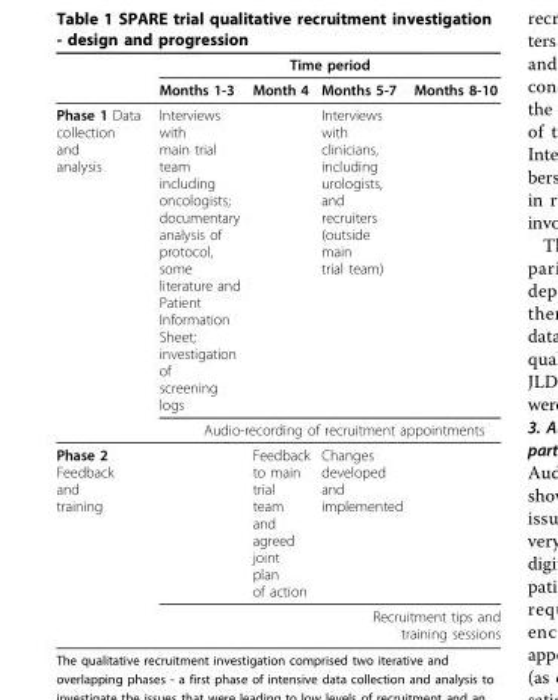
<table><thead><tr><td rowspan="2"></td><td colspan="4">Time period</td></tr><tr><td>Months 1-3</td><td>Month 4</td><td>Months 5-7</td><td>Months 8-10</td></tr></thead><tbody><tr><td rowspan="2">Phase 1 Data collection and analysis</td><td>Interviews with main trial team including oncologists; documentary analysis of protocol, some literature and Patient Information Sheet; investigation of screening logs</td><td></td><td>Interviews with clinicians, including urologists, and recruiters (outside main trial team)</td><td></td></tr><tr><td colspan="4">Audio-recording of recruitment appointments</td></tr><tr><td rowspan="2">Phase 2 Feedback and training</td><td></td><td>Feedback to main trial team and agreed joint plan of action</td><td>Changes developed and implemented</td><td></td></tr><tr><td></td><td></td><td colspan="2">Recruitment tips and training sessions</td></tr></tbody></table>